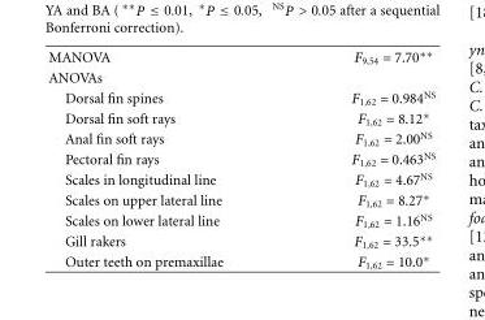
<table><tbody><tr><td>MANOVA</td><td>F9,54 = 7.70∗∗</td></tr><tr><td colspan="2">ANOVAs</td></tr><tr><td>Dorsal fin spines</td><td>F<sub>1,62</sub> = 0.984<sup>NS</sup></td></tr><tr><td>Dorsal fin soft rays</td><td>F1,62 = 8.12∗</td></tr><tr><td>Anal fin soft rays</td><td>F<sub>1,62</sub> = 2.00<sup>NS</sup></td></tr><tr><td>Pectoral fin rays</td><td>F<sub>1,62</sub> = 0.463<sup>NS</sup></td></tr><tr><td>Scales in longitudinal line</td><td>F<sub>1,62</sub> = 4.67<sup>NS</sup></td></tr><tr><td>Scales on upper lateral line</td><td>F1,62 = 8.27∗</td></tr><tr><td>Scales on lower lateral line</td><td>F<sub>1,62</sub> = 1.16<sup>NS</sup></td></tr><tr><td>Gill rakers</td><td>F1,62 = 33.5∗∗</td></tr><tr><td>Outer teeth on premaxillae</td><td>F1,62 = 10.0∗</td></tr></tbody></table>